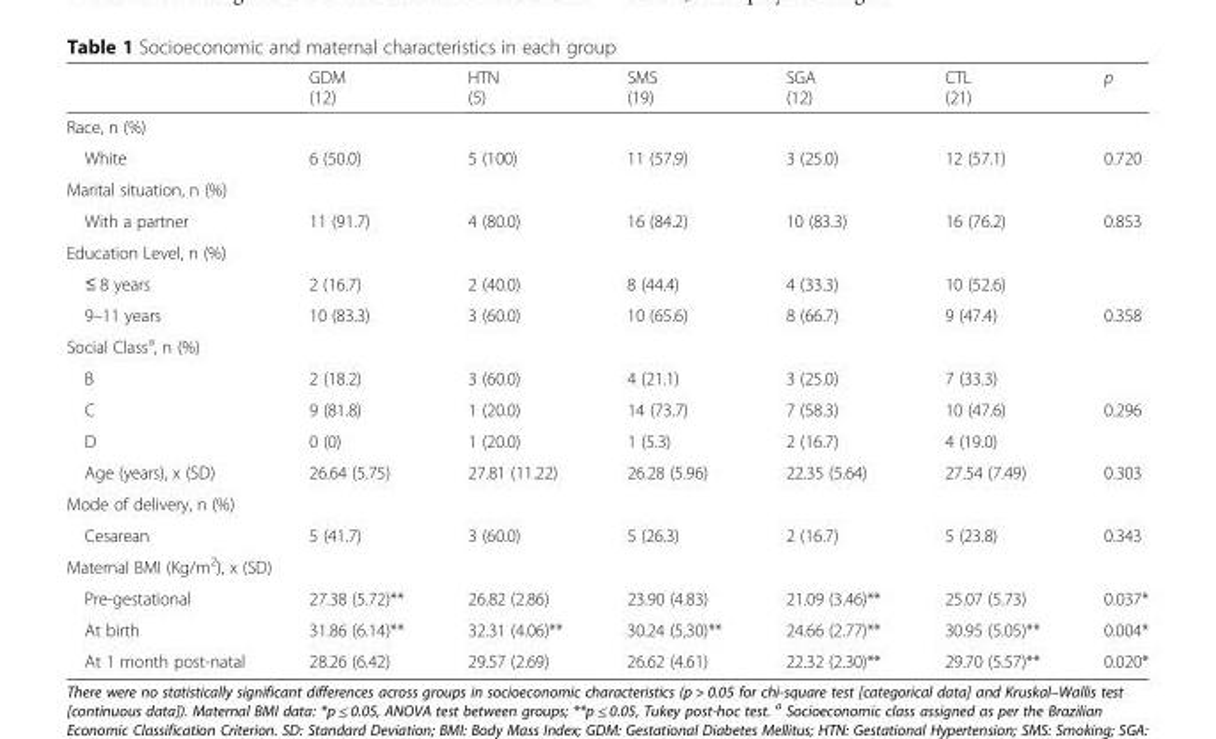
<table><thead><tr><td></td><td>GDM (12)</td><td>HTN (5)</td><td>SMS (19)</td><td>SGA (12)</td><td>CTL (21)</td><td>p</td></tr></thead><tbody><tr><td colspan="7">Race, n (%)</td></tr><tr><td>White</td><td>6 (50.0)</td><td>5 (100)</td><td>11 (57.9)</td><td>3 (25.0)</td><td>12 (57.1)</td><td>0.720</td></tr><tr><td colspan="7">Marital situation, n (%)</td></tr><tr><td>With a partner</td><td>11 (91.7)</td><td>4 (80.0)</td><td>16 (84.2)</td><td>10 (83.3)</td><td>16 (76.2)</td><td>0.853</td></tr><tr><td colspan="7">Education Level, n (%)</td></tr><tr><td>≤ 8 years</td><td>2 (16.7)</td><td>2 (40.0)</td><td>8 (44.4)</td><td>4 (33.3)</td><td>10 (52.6)</td><td></td></tr><tr><td>9–11 years</td><td>10 (83.3)</td><td>3 (60.0)</td><td>10 (65.6)</td><td>8 (66.7)</td><td>9 (47.4)</td><td>0.358</td></tr><tr><td colspan="7">Social Class<sup>a</sup>, n (%)</td></tr><tr><td>B</td><td>2 (18.2)</td><td>3 (60.0)</td><td>4 (21.1)</td><td>3 (25.0)</td><td>7 (33.3)</td><td></td></tr><tr><td>C</td><td>9 (81.8)</td><td>1 (20.0)</td><td>14 (73.7)</td><td>7 (58.3)</td><td>10 (47.6)</td><td>0.296</td></tr><tr><td>D</td><td>0 (0)</td><td>1 (20.0)</td><td>1 (5.3)</td><td>2 (16.7)</td><td>4 (19.0)</td><td></td></tr><tr><td>Age (years), x (SD)</td><td>26.64 (5.75)</td><td>27.81 (11.22)</td><td>26.28 (5.96)</td><td>22.35 (5.64)</td><td>27.54 (7.49)</td><td>0.303</td></tr><tr><td colspan="7">Mode of delivery, n (%)</td></tr><tr><td>Cesarean</td><td>5 (41.7)</td><td>3 (60.0)</td><td>5 (26.3)</td><td>2 (16.7)</td><td>5 (23.8)</td><td>0.343</td></tr><tr><td colspan="7">Maternal BMI (Kg/m<sup>2</sup>), x (SD)</td></tr><tr><td>Pre-gestational</td><td>27.38 (5.72)**</td><td>26.82 (2.86)</td><td>23.90 (4.83)</td><td>21.09 (3.46)**</td><td>25.07 (5.73)</td><td>0.037*</td></tr><tr><td>At birth</td><td>31.86 (6.14)**</td><td>32.31 (4.06)**</td><td>30.24 (5,30)**</td><td>24.66 (2.77)**</td><td>30.95 (5.05)**</td><td>0.004*</td></tr><tr><td>At 1 month post-natal</td><td>28.26 (6.42)</td><td>29.57 (2.69)</td><td>26.62 (4.61)</td><td>22.32 (2.30)**</td><td>29.70 (5.57)**</td><td>0.020*</td></tr></tbody></table>